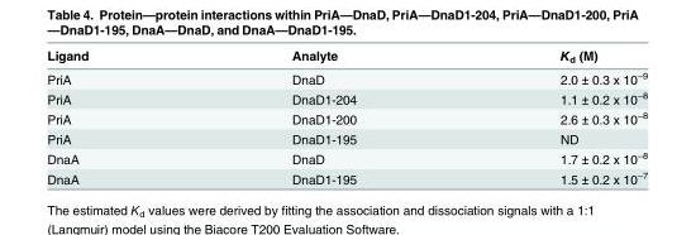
<table><thead><tr><td>Ligand</td><td>Analyte</td><td>K<sub>d</sub> (M)</td></tr></thead><tbody><tr><td>PriA</td><td>DnaD</td><td>2.0 ± 0.3 x 10<sup>−9</sup></td></tr><tr><td>PriA</td><td>DnaD1-204</td><td>1.1 ± 0.2 x 10<sup>−8</sup></td></tr><tr><td>PriA</td><td>DnaD1-200</td><td>2.6 ± 0.3 x 10<sup>−8</sup></td></tr><tr><td>PriA</td><td>DnaD1-195</td><td>ND</td></tr><tr><td>DnaA</td><td>DnaD</td><td>1.7 ± 0.2 x 10<sup>−8</sup></td></tr><tr><td>DnaA</td><td>DnaD1-195</td><td>1.5 ± 0.2 x 10<sup>−7</sup></td></tr></tbody></table>